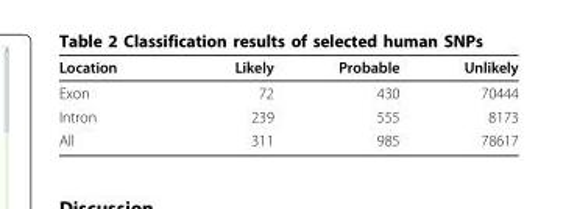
<table><thead><tr><td>Location</td><td>Likely</td><td>Probable</td><td>Unlikely</td></tr></thead><tbody><tr><td>Exon</td><td>72</td><td>430</td><td>70444</td></tr><tr><td>Intron</td><td>239</td><td>555</td><td>8173</td></tr><tr><td>All</td><td>311</td><td>985</td><td>78617</td></tr></tbody></table>